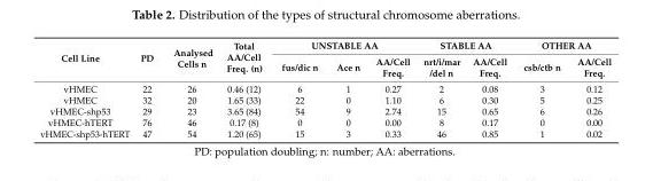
<table><thead><tr><td rowspan="2">Cell Line</td><td rowspan="2">PD</td><td rowspan="2">Analysed Cells n</td><td rowspan="2">Total AA/Cell Freq. (n)</td><td colspan="3">UNSTABLE AA</td><td colspan="2">STABLE AA</td><td colspan="2">OTHER AA</td></tr><tr><td>fus/dic n</td><td>Ace n</td><td>AA/Cell Freq.</td><td>nrt/i/mar /del n</td><td>AA/Cell Freq.</td><td>csb/ctb n</td><td>AA/Cell Freq.</td></tr></thead><tbody><tr><td>vHMEC</td><td>22</td><td>26</td><td>0.46 (12)</td><td>6</td><td>1</td><td>0.27</td><td>2</td><td>0.08</td><td>3</td><td>0.12</td></tr><tr><td>vHMEC</td><td>32</td><td>20</td><td>1.65 (33)</td><td>22</td><td>0</td><td>1.10</td><td>6</td><td>0.30</td><td>5</td><td>0.25</td></tr><tr><td>vHMEC-shp53</td><td>29</td><td>23</td><td>3.65 (84)</td><td>54</td><td>9</td><td>2.74</td><td>15</td><td>0.65</td><td>6</td><td>0.26</td></tr><tr><td>vHMEC-hTERT</td><td>76</td><td>46</td><td>0.17 (8)</td><td>0</td><td>0</td><td>0.00</td><td>8</td><td>0.17</td><td>0</td><td>0.00</td></tr><tr><td>vHMEC-shp53-hTERT</td><td>47</td><td>54</td><td>1.20 (65)</td><td>15</td><td>3</td><td>0.33</td><td>46</td><td>0.85</td><td>1</td><td>0.02</td></tr></tbody></table>